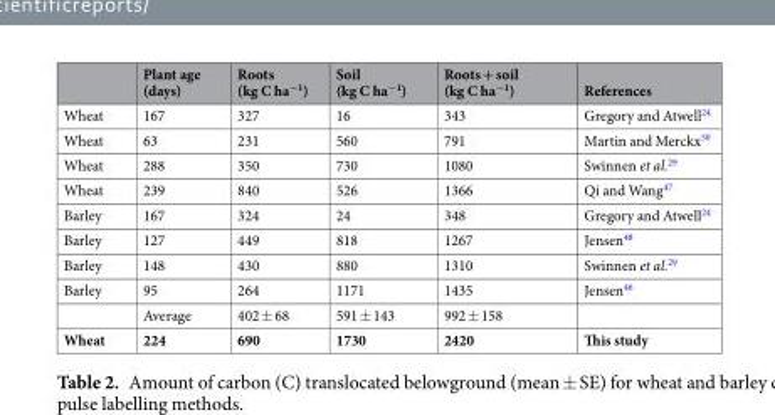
<table><thead><tr><td></td><td>Plant age (days)</td><td>Roots (kg C ha<sup>−1</sup>)</td><td>Soil (kg C ha<sup>−1</sup>)</td><td>Roots + soil (kg C ha<sup>−1</sup>)</td><td>References</td></tr></thead><tbody><tr><td>Wheat</td><td>167</td><td>327</td><td>16</td><td>343</td><td>Gregory and Atwell<sup>24</sup></td></tr><tr><td>Wheat</td><td>63</td><td>231</td><td>560</td><td>791</td><td>Martin and Merckx<sup>50</sup></td></tr><tr><td>Wheat</td><td>288</td><td>350</td><td>730</td><td>1080</td><td>Swinnen et al.<sup>29</sup></td></tr><tr><td>Wheat</td><td>239</td><td>840</td><td>526</td><td>1366</td><td>Qi and Wang<sup>47</sup></td></tr><tr><td>Barley</td><td>167</td><td>324</td><td>24</td><td>348</td><td>Gregory and Atwell<sup>24</sup></td></tr><tr><td>Barley</td><td>127</td><td>449</td><td>818</td><td>1267</td><td>Jensen<sup>48</sup></td></tr><tr><td>Barley</td><td>148</td><td>430</td><td>880</td><td>1310</td><td>Swinnen et al.<sup>29</sup></td></tr><tr><td rowspan="2">Barley</td><td>95</td><td>264</td><td>1171</td><td>1435</td><td>Jensen<sup>46</sup></td></tr><tr><td>Average</td><td>402 ± 68</td><td>591 ± 143</td><td>992 ± 158</td><td></td></tr><tr><td>Wheat</td><td>224</td><td>690</td><td>1730</td><td>2420</td><td>This study</td></tr></tbody></table>